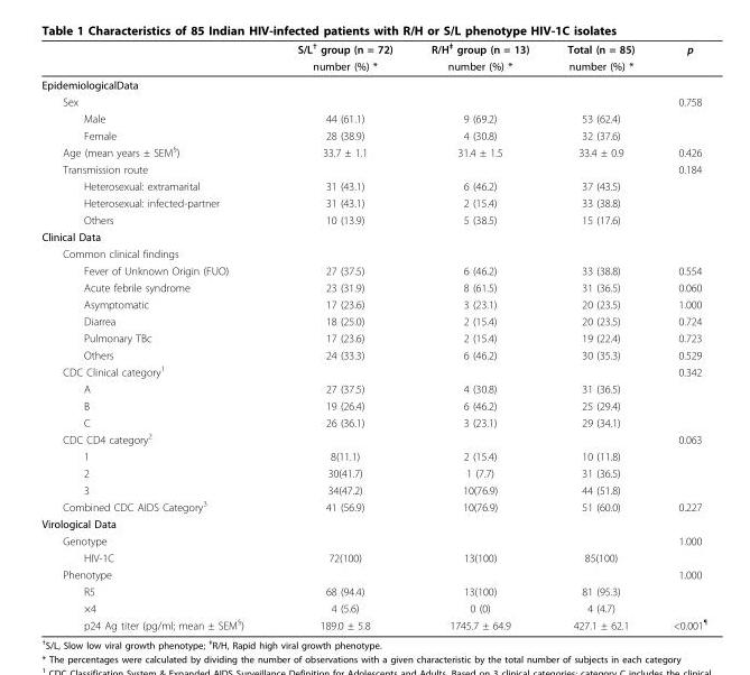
<table><thead><tr><td rowspan="2"></td><td rowspan="2">S/L<sup>†</sup> group (n = 72) number (%) *</td><td rowspan="2">R/H<sup>‡</sup> group (n = 13) number (%) *</td><td rowspan="2">Total (n = 85) number (%) *</td><td rowspan="2">p</td></tr><tr></tr></thead><tbody><tr><td colspan="5">EpidemiologicalData</td></tr><tr><td>Sex</td><td></td><td></td><td></td><td>0.758</td></tr><tr><td>Male</td><td>44 (61.1)</td><td>9 (69.2)</td><td>53 (62.4)</td><td></td></tr><tr><td>Female</td><td>28 (38.9)</td><td>4 (30.8)</td><td>32 (37.6)</td><td></td></tr><tr><td>Age (mean years ± SEM<sup>§</sup>)</td><td>33.7 ± 1.1</td><td>31.4 ± 1.5</td><td>33.4 ± 0.9</td><td>0.426</td></tr><tr><td>Transmission route</td><td></td><td></td><td></td><td>0.184</td></tr><tr><td>Heterosexual: extramarital</td><td>31 (43.1)</td><td>6 (46.2)</td><td>37 (43.5)</td><td></td></tr><tr><td>Heterosexual: infected-partner</td><td>31 (43.1)</td><td>2 (15.4)</td><td>33 (38.8)</td><td></td></tr><tr><td>Others</td><td>10 (13.9)</td><td>5 (38.5)</td><td>15 (17.6)</td><td></td></tr><tr><td colspan="5">Clinical Data</td></tr><tr><td colspan="5">Common clinical findings</td></tr><tr><td>Fever of Unknown Origin (FUO)</td><td>27 (37.5)</td><td>6 (46.2)</td><td>33 (38.8)</td><td>0.554</td></tr><tr><td>Acute febrile syndrome</td><td>23 (31.9)</td><td>8 (61.5)</td><td>31 (36.5)</td><td>0.060</td></tr><tr><td>Asymptomatic</td><td>17 (23.6)</td><td>3 (23.1)</td><td>20 (23.5)</td><td>1.000</td></tr><tr><td>Diarrea</td><td>18 (25.0)</td><td>2 (15.4)</td><td>20 (23.5)</td><td>0.724</td></tr><tr><td>Pulmonary TBc</td><td>17 (23.6)</td><td>2 (15.4)</td><td>19 (22.4)</td><td>0.723</td></tr><tr><td>Others</td><td>24 (33.3)</td><td>6 (46.2)</td><td>30 (35.3)</td><td>0.529</td></tr><tr><td>CDC Clinical category<sup>1</sup></td><td></td><td></td><td></td><td>0.342</td></tr><tr><td>A</td><td>27 (37.5)</td><td>4 (30.8)</td><td>31 (36.5)</td><td></td></tr><tr><td>B</td><td>19 (26.4)</td><td>6 (46.2)</td><td>25 (29.4)</td><td></td></tr><tr><td>C</td><td>26 (36.1)</td><td>3 (23.1)</td><td>29 (34.1)</td><td></td></tr><tr><td>CDC CD4 category<sup>2</sup></td><td></td><td></td><td></td><td>0.063</td></tr><tr><td>1</td><td>8(11.1)</td><td>2 (15.4)</td><td>10 (11.8)</td><td></td></tr><tr><td>2</td><td>30(41.7)</td><td>1 (7.7)</td><td>31 (36.5)</td><td></td></tr><tr><td>3</td><td>34(47.2)</td><td>10(76.9)</td><td>44 (51.8)</td><td></td></tr><tr><td>Combined CDC AIDS Category<sup>3</sup></td><td>41 (56.9)</td><td>10(76.9)</td><td>51 (60.0)</td><td>0.227</td></tr><tr><td colspan="5">Virological Data</td></tr><tr><td>Genotype</td><td></td><td></td><td></td><td>1.000</td></tr><tr><td>HIV-1C</td><td>72(100)</td><td>13(100)</td><td>85(100)</td><td></td></tr><tr><td>Phenotype</td><td></td><td></td><td></td><td>1.000</td></tr><tr><td>R5</td><td>68 (94.4)</td><td>13(100)</td><td>81 (95.3)</td><td></td></tr><tr><td>×4</td><td>4 (5.6)</td><td>0 (0)</td><td>4 (4.7)</td><td></td></tr><tr><td>p24 Ag titer (pg/ml; mean ± SEM<sup>§</sup>)</td><td>189.0 ± 5.8</td><td>1745.7 ± 64.9</td><td>427.1 ± 62.1</td><td>&lt;0.001<sup>¶</sup></td></tr></tbody></table>